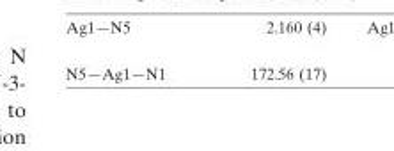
<table><tbody><tr><td>N5—Ag1—N1</td><td>172.56 (17)</td></tr></tbody></table>